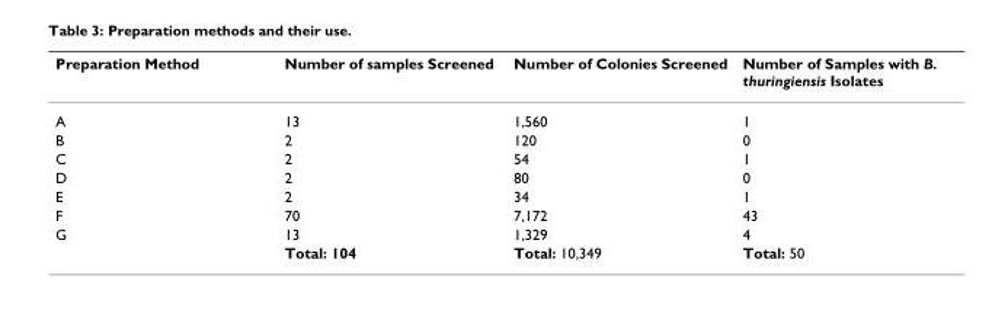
<table><thead><tr><td>Preparation Method</td><td>Number of samples Screened</td><td>Number of Colonies Screened</td><td>Number of Samples with B. thuringiensis Isolates</td></tr></thead><tbody><tr><td>A</td><td>13</td><td>1,560</td><td>1</td></tr><tr><td>B</td><td>2</td><td>120</td><td>0</td></tr><tr><td>C</td><td>2</td><td>54</td><td>1</td></tr><tr><td>D</td><td>2</td><td>80</td><td>0</td></tr><tr><td>E</td><td>2</td><td>34</td><td>1</td></tr><tr><td>F</td><td>70</td><td>7,172</td><td>43</td></tr><tr><td rowspan="2">G</td><td>13</td><td>1,329</td><td>4</td></tr><tr><td>Total: 104</td><td>Total: 10,349</td><td>Total: 50</td></tr></tbody></table>